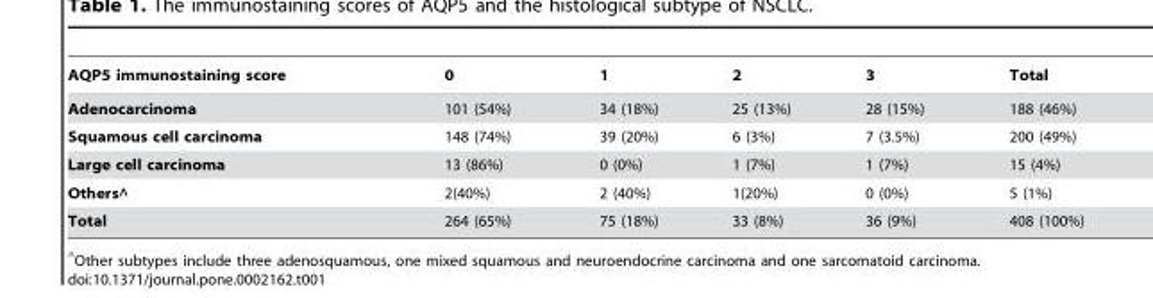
<table><thead><tr><td>AQP5 immunostaining score</td><td>0</td><td>1</td><td>2</td><td>3</td><td>Total</td></tr></thead><tbody><tr><td>Adenocarcinoma</td><td>101 (54%)</td><td>34 (18%)</td><td>25 (13%)</td><td>28 (15%)</td><td>188 (46%)</td></tr><tr><td>Squamous cell carcinoma</td><td>148 (74%)</td><td>39 (20%)</td><td>6 (3%)</td><td>7 (3.5%)</td><td>200 (49%)</td></tr><tr><td>Large cell carcinoma</td><td>13 (86%)</td><td>0 (0%)</td><td>1 (7%)</td><td>1 (7%)</td><td>15 (4%)</td></tr><tr><td>Others^</td><td>2(40%)</td><td>2 (40%)</td><td>1(20%)</td><td>0 (0%)</td><td>5 (1%)</td></tr><tr><td>Total</td><td>264 (65%)</td><td>75 (18%)</td><td>33 (8%)</td><td>36 (9%)</td><td>408 (100%)</td></tr></tbody></table>